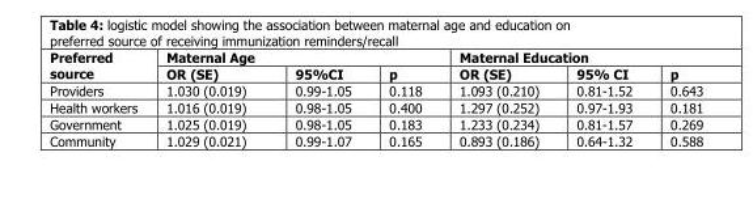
<table><thead><tr><td rowspan="2">Preferred source</td><td colspan="3">Maternal Age</td><td colspan="3">Maternal Education</td></tr><tr><td>OR (SE)</td><td>95%CI</td><td>p</td><td>OR (SE)</td><td>95% CI</td><td>p</td></tr></thead><tbody><tr><td>Providers</td><td>1.030 (0.019)</td><td>0.99-1.05</td><td>0.118</td><td>1.093 (0.210)</td><td>0.81-1.52</td><td>0.643</td></tr><tr><td>Health workers</td><td>1.016 (0.019)</td><td>0.98-1.05</td><td>0.400</td><td>1.297 (0.252)</td><td>0.97-1.93</td><td>0.181</td></tr><tr><td>Government</td><td>1.025 (0.019)</td><td>0.98-1.05</td><td>0.183</td><td>1.233 (0.234)</td><td>0.81-1.57</td><td>0.269</td></tr><tr><td>Community</td><td>1.029 (0.021)</td><td>0.99-1.07</td><td>0.165</td><td>0.893 (0.186)</td><td>0.64-1.32</td><td>0.588</td></tr></tbody></table>